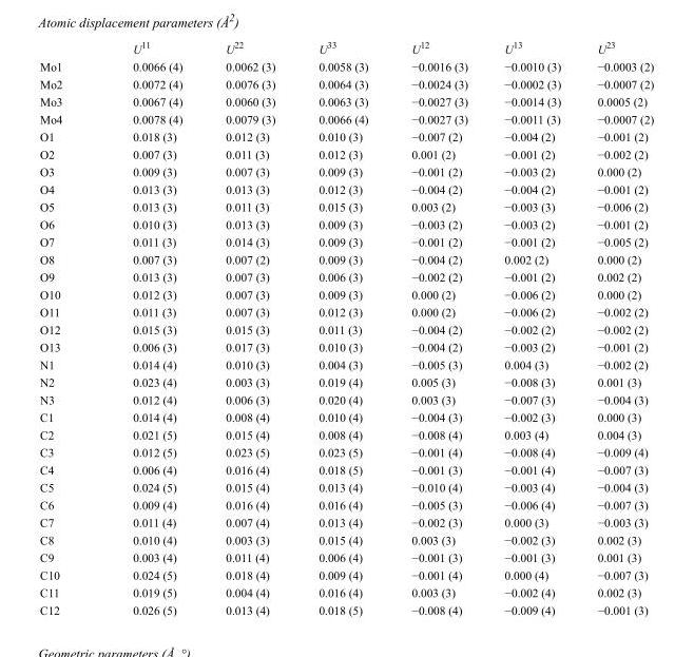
<table><thead><tr><td></td><td>U<sup>11</sup></td><td>U<sup>22</sup></td><td>U<sup>33</sup></td><td>U<sup>12</sup></td><td>U<sup>13</sup></td><td>U<sup>23</sup></td></tr></thead><tbody><tr><td>Mo1</td><td>0.0066 (4)</td><td>0.0062 (3)</td><td>0.0058 (3)</td><td>−0.0016 (3)</td><td>−0.0010 (3)</td><td>−0.0003 (2)</td></tr><tr><td>Mo2</td><td>0.0072 (4)</td><td>0.0076 (3)</td><td>0.0064 (3)</td><td>−0.0024 (3)</td><td>−0.0002 (3)</td><td>−0.0007 (2)</td></tr><tr><td>Mo3</td><td>0.0067 (4)</td><td>0.0060 (3)</td><td>0.0063 (3)</td><td>−0.0027 (3)</td><td>−0.0014 (3)</td><td>0.0005 (2)</td></tr><tr><td>Mo4</td><td>0.0078 (4)</td><td>0.0079 (3)</td><td>0.0066 (4)</td><td>−0.0027 (3)</td><td>−0.0011 (3)</td><td>−0.0007 (2)</td></tr><tr><td>O1</td><td>0.018 (3)</td><td>0.012 (3)</td><td>0.010 (3)</td><td>−0.007 (2)</td><td>−0.004 (2)</td><td>−0.001 (2)</td></tr><tr><td>O2</td><td>0.007 (3)</td><td>0.011 (3)</td><td>0.012 (3)</td><td>0.001 (2)</td><td>−0.001 (2)</td><td>−0.002 (2)</td></tr><tr><td>O3</td><td>0.009 (3)</td><td>0.007 (3)</td><td>0.009 (3)</td><td>−0.001 (2)</td><td>−0.003 (2)</td><td>0.000 (2)</td></tr><tr><td>O4</td><td>0.013 (3)</td><td>0.013 (3)</td><td>0.012 (3)</td><td>−0.004 (2)</td><td>−0.004 (2)</td><td>−0.001 (2)</td></tr><tr><td>O5</td><td>0.013 (3)</td><td>0.011 (3)</td><td>0.015 (3)</td><td>0.003 (2)</td><td>−0.003 (3)</td><td>−0.006 (2)</td></tr><tr><td>O6</td><td>0.010 (3)</td><td>0.013 (3)</td><td>0.009 (3)</td><td>−0.003 (2)</td><td>−0.003 (2)</td><td>−0.001 (2)</td></tr><tr><td>O7</td><td>0.011 (3)</td><td>0.014 (3)</td><td>0.009 (3)</td><td>−0.001 (2)</td><td>−0.001 (2)</td><td>−0.005 (2)</td></tr><tr><td>O8</td><td>0.007 (3)</td><td>0.007 (2)</td><td>0.009 (3)</td><td>−0.004 (2)</td><td>0.002 (2)</td><td>0.000 (2)</td></tr><tr><td>O9</td><td>0.013 (3)</td><td>0.007 (3)</td><td>0.006 (3)</td><td>−0.002 (2)</td><td>−0.001 (2)</td><td>0.002 (2)</td></tr><tr><td>O10</td><td>0.012 (3)</td><td>0.007 (3)</td><td>0.009 (3)</td><td>0.000 (2)</td><td>−0.006 (2)</td><td>0.000 (2)</td></tr><tr><td>O11</td><td>0.011 (3)</td><td>0.007 (3)</td><td>0.012 (3)</td><td>0.000 (2)</td><td>−0.006 (2)</td><td>−0.002 (2)</td></tr><tr><td>O12</td><td>0.015 (3)</td><td>0.015 (3)</td><td>0.011 (3)</td><td>−0.004 (2)</td><td>−0.002 (2)</td><td>−0.002 (2)</td></tr><tr><td>O13</td><td>0.006 (3)</td><td>0.017 (3)</td><td>0.010 (3)</td><td>−0.004 (2)</td><td>−0.003 (2)</td><td>−0.001 (2)</td></tr><tr><td>N1</td><td>0.014 (4)</td><td>0.010 (3)</td><td>0.004 (3)</td><td>−0.005 (3)</td><td>0.004 (3)</td><td>−0.002 (2)</td></tr><tr><td>N2</td><td>0.023 (4)</td><td>0.003 (3)</td><td>0.019 (4)</td><td>0.005 (3)</td><td>−0.008 (3)</td><td>0.001 (3)</td></tr><tr><td>N3</td><td>0.012 (4)</td><td>0.006 (3)</td><td>0.020 (4)</td><td>0.003 (3)</td><td>−0.007 (3)</td><td>−0.004 (3)</td></tr><tr><td>C1</td><td>0.014 (4)</td><td>0.008 (4)</td><td>0.010 (4)</td><td>−0.004 (3)</td><td>−0.002 (3)</td><td>0.000 (3)</td></tr><tr><td>C2</td><td>0.021 (5)</td><td>0.015 (4)</td><td>0.008 (4)</td><td>−0.008 (4)</td><td>0.003 (4)</td><td>0.004 (3)</td></tr><tr><td>C3</td><td>0.012 (5)</td><td>0.023 (5)</td><td>0.023 (5)</td><td>−0.001 (4)</td><td>−0.008 (4)</td><td>−0.009 (4)</td></tr><tr><td>C4</td><td>0.006 (4)</td><td>0.016 (4)</td><td>0.018 (5)</td><td>−0.001 (3)</td><td>−0.001 (4)</td><td>−0.007 (3)</td></tr><tr><td>C5</td><td>0.024 (5)</td><td>0.015 (4)</td><td>0.013 (4)</td><td>−0.010 (4)</td><td>−0.003 (4)</td><td>−0.004 (3)</td></tr><tr><td>C6</td><td>0.009 (4)</td><td>0.016 (4)</td><td>0.016 (4)</td><td>−0.005 (3)</td><td>−0.006 (4)</td><td>−0.007 (3)</td></tr><tr><td>C7</td><td>0.011 (4)</td><td>0.007 (4)</td><td>0.013 (4)</td><td>−0.002 (3)</td><td>0.000 (3)</td><td>−0.003 (3)</td></tr><tr><td>C8</td><td>0.010 (4)</td><td>0.003 (3)</td><td>0.015 (4)</td><td>0.003 (3)</td><td>−0.002 (3)</td><td>0.002 (3)</td></tr><tr><td>C9</td><td>0.003 (4)</td><td>0.011 (4)</td><td>0.006 (4)</td><td>−0.001 (3)</td><td>−0.001 (3)</td><td>0.001 (3)</td></tr><tr><td>C10</td><td>0.024 (5)</td><td>0.018 (4)</td><td>0.009 (4)</td><td>−0.001 (4)</td><td>0.000 (4)</td><td>−0.007 (3)</td></tr><tr><td>C11</td><td>0.019 (5)</td><td>0.004 (4)</td><td>0.016 (4)</td><td>0.003 (3)</td><td>−0.002 (4)</td><td>0.002 (3)</td></tr><tr><td>C12</td><td>0.026 (5)</td><td>0.013 (4)</td><td>0.018 (5)</td><td>−0.008 (4)</td><td>−0.009 (4)</td><td>−0.001 (3)</td></tr></tbody></table>